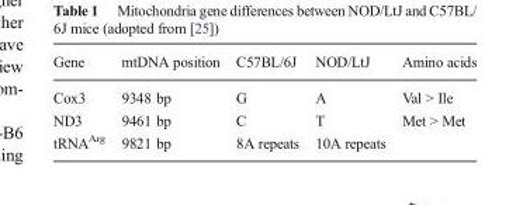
<table><thead><tr><td>Gene</td><td>mtDNA position</td><td>C57BL/6J</td><td>NOD/LtJ</td><td>Amino acids</td></tr></thead><tbody><tr><td>Cox3</td><td>9348 bp</td><td>G</td><td>A</td><td>Val &gt; Ile</td></tr><tr><td>ND3</td><td>9461 bp</td><td>C</td><td>T</td><td>Met &gt; Met</td></tr><tr><td>tRNA<sup>Arg</sup></td><td>9821 bp</td><td>8A repeats</td><td>10A repeats</td><td></td></tr></tbody></table>